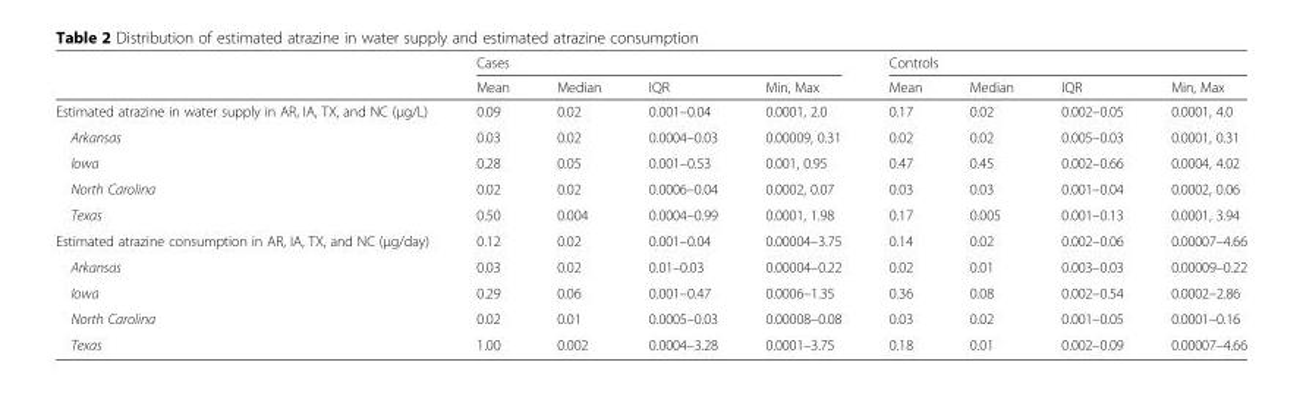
<table><thead><tr><td rowspan="2"></td><td colspan="4">Cases</td><td colspan="4">Controls</td></tr><tr><td>Mean</td><td>Median</td><td>IQR</td><td>Min, Max</td><td>Mean</td><td>Median</td><td>IQR</td><td>Min, Max</td></tr></thead><tbody><tr><td>Estimated atrazine in water supply in AR, IA, TX, and NC (μg/L)</td><td>0.09</td><td>0.02</td><td>0.001–0.04</td><td>0.0001, 2.0</td><td>0.17</td><td>0.02</td><td>0.002–0.05</td><td>0.0001, 4.0</td></tr><tr><td>Arkansas</td><td>0.03</td><td>0.02</td><td>0.0004–0.03</td><td>0.00009, 0.31</td><td>0.02</td><td>0.02</td><td>0.005–0.03</td><td>0.0001, 0.31</td></tr><tr><td>Iowa</td><td>0.28</td><td>0.05</td><td>0.001–0.53</td><td>0.001, 0.95</td><td>0.47</td><td>0.45</td><td>0.002–0.66</td><td>0.0004, 4.02</td></tr><tr><td>North Carolina</td><td>0.02</td><td>0.02</td><td>0.0006–0.04</td><td>0.0002, 0.07</td><td>0.03</td><td>0.03</td><td>0.001–0.04</td><td>0.0002, 0.06</td></tr><tr><td>Texas</td><td>0.50</td><td>0.004</td><td>0.0004–0.99</td><td>0.0001, 1.98</td><td>0.17</td><td>0.005</td><td>0.001–0.13</td><td>0.0001, 3.94</td></tr><tr><td>Estimated atrazine consumption in AR, IA, TX, and NC (μg/day)</td><td>0.12</td><td>0.02</td><td>0.001–0.04</td><td>0.00004–3.75</td><td>0.14</td><td>0.02</td><td>0.002–0.06</td><td>0.00007–4.66</td></tr><tr><td>Arkansas</td><td>0.03</td><td>0.02</td><td>0.01–0.03</td><td>0.00004–0.22</td><td>0.02</td><td>0.01</td><td>0.003–0.03</td><td>0.00009–0.22</td></tr><tr><td>Iowa</td><td>0.29</td><td>0.06</td><td>0.001–0.47</td><td>0.0006–1.35</td><td>0.36</td><td>0.08</td><td>0.002–0.54</td><td>0.0002–2.86</td></tr><tr><td>North Carolina</td><td>0.02</td><td>0.01</td><td>0.0005–0.03</td><td>0.00008–0.08</td><td>0.03</td><td>0.02</td><td>0.001–0.05</td><td>0.0001–0.16</td></tr><tr><td>Texas</td><td>1.00</td><td>0.002</td><td>0.0004–3.28</td><td>0.0001–3.75</td><td>0.18</td><td>0.01</td><td>0.002–0.09</td><td>0.00007–4.66</td></tr></tbody></table>